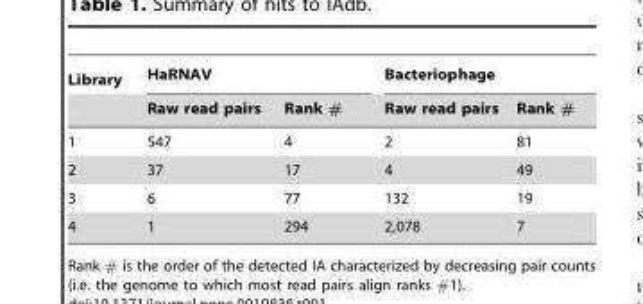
<table><thead><tr><td rowspan="2">Library</td><td colspan="2">HaRNAV</td><td colspan="2">Bacteriophage</td></tr><tr><td>Raw read pairs</td><td>Rank #</td><td>Raw read pairs</td><td>Rank #</td></tr></thead><tbody><tr><td>1</td><td>547</td><td>4</td><td>2</td><td>81</td></tr><tr><td>2</td><td>37</td><td>17</td><td>4</td><td>49</td></tr><tr><td>3</td><td>6</td><td>77</td><td>132</td><td>19</td></tr><tr><td>4</td><td>1</td><td>294</td><td>2,078</td><td>7</td></tr></tbody></table>